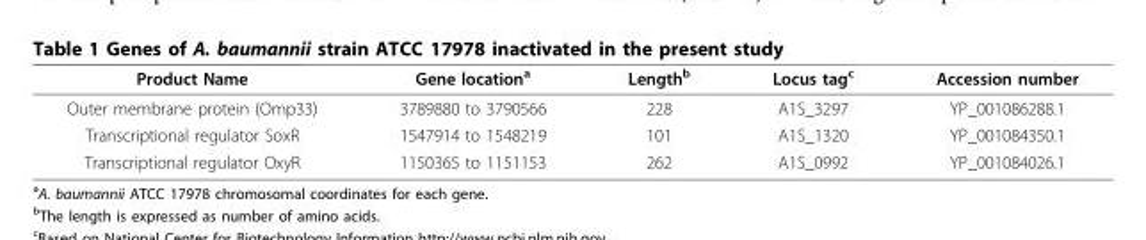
<table><thead><tr><td>Product Name</td><td>Gene location<sup>a</sup></td><td>Length<sup>b</sup></td><td>Locus tag<sup>c</sup></td><td>Accession number</td></tr></thead><tbody><tr><td>Outer membrane protein (Omp33)</td><td>3789880 to 3790566</td><td>228</td><td>A1S_3297</td><td>YP_001086288.1</td></tr><tr><td>Transcriptional regulator SoxR</td><td>1547914 to 1548219</td><td>101</td><td>A1S_1320</td><td>YP_001084350.1</td></tr><tr><td>Transcriptional regulator OxyR</td><td>1150365 to 1151153</td><td>262</td><td>A1S_0992</td><td>YP_001084026.1</td></tr></tbody></table>